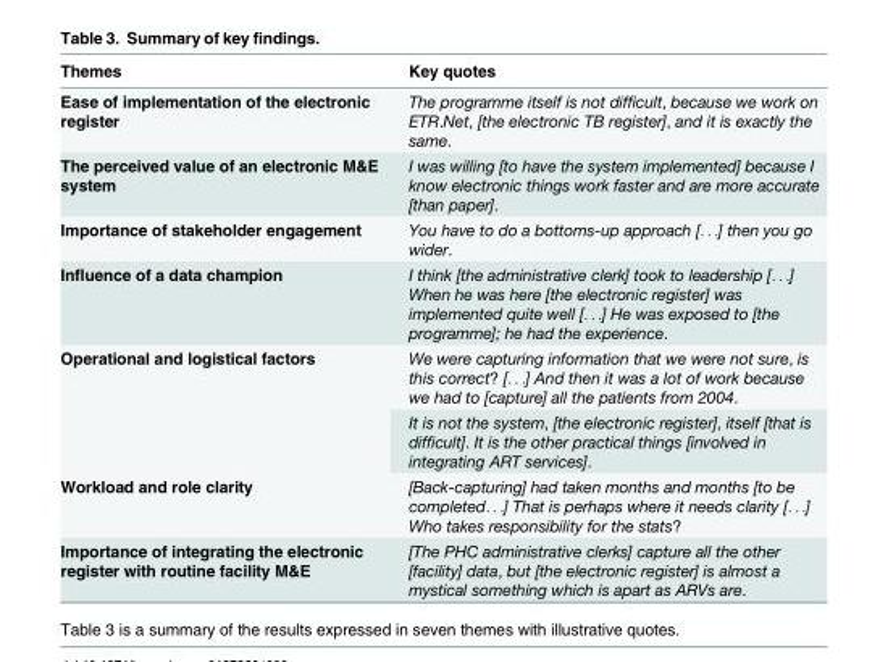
<table><thead><tr><td>Themes</td><td>Key quotes</td></tr></thead><tbody><tr><td>Ease of implementation of the electronic register</td><td>The programme itself is not difficult, because we work on ETR.Net, [the electronic TB register], and it is exactly the same.</td></tr><tr><td>The perceived value of an electronic M&amp;E system</td><td>I was willing [to have the system implemented] because I know electronic things work faster and are more accurate [than paper].</td></tr><tr><td>Importance of stakeholder engagement</td><td>You have to do a bottoms-up approach [. . .] then you go wider.</td></tr><tr><td>Influence of a data champion</td><td>I think [the administrative clerk] took to leadership [. . .] When he was here [the electronic register] was implemented quite well [. . .] He was exposed to [the programme]; he had the experience.</td></tr><tr><td rowspan="2">Operational and logistical factors</td><td>We were capturing information that we were not sure, is this correct? [. . .] And then it was a lot of work because we had to [capture] all the patients from 2004.</td></tr><tr><td>It is not the system, [the electronic register], itself [that is difficult]. It is the other practical things [involved in integrating ART services].</td></tr><tr><td>Workload and role clarity</td><td>[Back-capturing] had taken months and months [to be completed. . .] That is perhaps where it needs clarity [. . .] Who takes responsibility for the stats?</td></tr><tr><td>Importance of integrating the electronic register with routine facility M&amp;E</td><td>[The PHC administrative clerks] capture all the other [facility] data, but [the electronic register] is almost a mystical something which is apart as ARVs are.</td></tr></tbody></table>